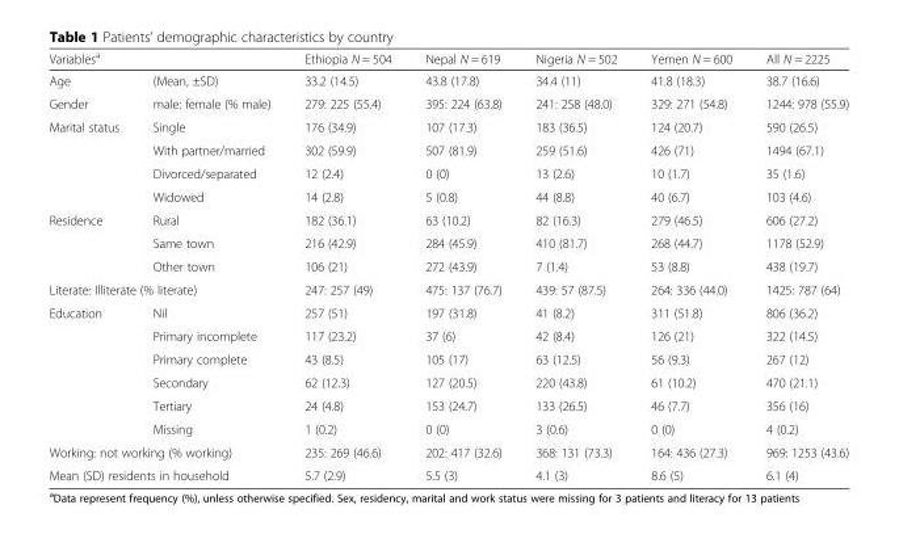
<table><thead><tr><td colspan="2">Variables<sup>a</sup></td><td rowspan="2">Ethiopia N = 504 33.2 (14.5)</td><td rowspan="2">Nepal N = 619 43.8 (17.8)</td><td rowspan="2">Nigeria N = 502 34.4 (11)</td><td rowspan="2">Yemen N = 600 41.8 (18.3)</td><td rowspan="2">All N = 2225 38.7 (16.6)</td></tr><tr><td>Age</td><td>(Mean, ±SD)</td></tr></thead><tbody><tr><td>Gender</td><td>male: female (% male)</td><td>279: 225 (55.4)</td><td>395: 224 (63.8)</td><td>241: 258 (48.0)</td><td>329: 271 (54.8)</td><td>1244: 978 (55.9)</td></tr><tr><td rowspan="4">Marital status</td><td>Single</td><td>176 (34.9)</td><td>107 (17.3)</td><td>183 (36.5)</td><td>124 (20.7)</td><td>590 (26.5)</td></tr><tr><td>With partner/married</td><td>302 (59.9)</td><td>507 (81.9)</td><td>259 (51.6)</td><td>426 (71)</td><td>1494 (67.1)</td></tr><tr><td>Divorced/separated</td><td>12 (2.4)</td><td>0 (0)</td><td>13 (2.6)</td><td>10 (1.7)</td><td>35 (1.6)</td></tr><tr><td>Widowed</td><td>14 (2.8)</td><td>5 (0.8)</td><td>44 (8.8)</td><td>40 (6.7)</td><td>103 (4.6)</td></tr><tr><td rowspan="3">Residence</td><td>Rural</td><td>182 (36.1)</td><td>63 (10.2)</td><td>82 (16.3)</td><td>279 (46.5)</td><td>606 (27.2)</td></tr><tr><td>Same town</td><td>216 (42.9)</td><td>284 (45.9)</td><td>410 (81.7)</td><td>268 (44.7)</td><td>1178 (52.9)</td></tr><tr><td>Other town</td><td>106 (21)</td><td>272 (43.9)</td><td>7 (1.4)</td><td>53 (8.8)</td><td>438 (19.7)</td></tr><tr><td colspan="2">Literate: Illiterate (% literate)</td><td>247: 257 (49)</td><td>475: 137 (76.7)</td><td>439: 57 (87.5)</td><td>264: 336 (44.0)</td><td>1425: 787 (64)</td></tr><tr><td rowspan="6">Education</td><td>Nil</td><td>257 (51)</td><td>197 (31.8)</td><td>41 (8.2)</td><td>311 (51.8)</td><td>806 (36.2)</td></tr><tr><td>Primary incomplete</td><td>117 (23.2)</td><td>37 (6)</td><td>42 (8.4)</td><td>126 (21)</td><td>322 (14.5)</td></tr><tr><td>Primary complete</td><td>43 (8.5)</td><td>105 (17)</td><td>63 (12.5)</td><td>56 (9.3)</td><td>267 (12)</td></tr><tr><td>Secondary</td><td>62 (12.3)</td><td>127 (20.5)</td><td>220 (43.8)</td><td>61 (10.2)</td><td>470 (21.1)</td></tr><tr><td>Tertiary</td><td>24 (4.8)</td><td>153 (24.7)</td><td>133 (26.5)</td><td>46 (7.7)</td><td>356 (16)</td></tr><tr><td>Missing</td><td>1 (0.2)</td><td>0 (0)</td><td>3 (0.6)</td><td>0 (0)</td><td>4 (0.2)</td></tr><tr><td colspan="2">Working: not working (% working)</td><td>235: 269 (46.6)</td><td>202: 417 (32.6)</td><td>368: 131 (73.3)</td><td>164: 436 (27.3)</td><td>969: 1253 (43.6)</td></tr><tr><td colspan="2">Mean (SD) residents in household</td><td>5.7 (2.9)</td><td>5.5 (3)</td><td>4.1 (3)</td><td>8.6 (5)</td><td>6.1 (4)</td></tr></tbody></table>